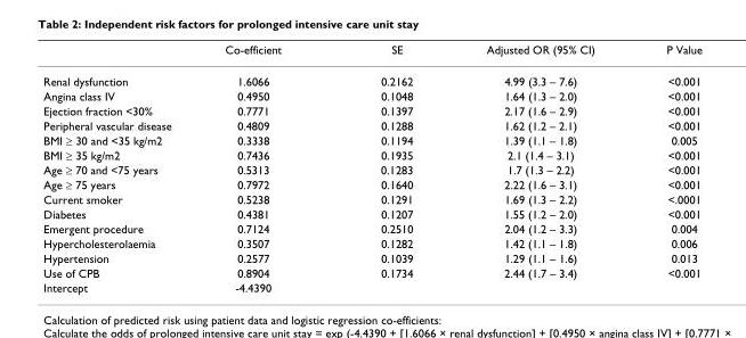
<table><thead><tr><td></td><td>Co-efficient</td><td>SE</td><td>Adjusted OR (95% CI)</td><td>P Value</td></tr></thead><tbody><tr><td>Renal dysfunction</td><td>1.6066</td><td>0.2162</td><td>4.99 (3.3 – 7.6)</td><td>&lt;0.001</td></tr><tr><td>Angina class IV</td><td>0.4950</td><td>0.1048</td><td>1.64 (1.3 – 2.0)</td><td>&lt;0.001</td></tr><tr><td>Ejection fraction &lt;30%</td><td>0.7771</td><td>0.1397</td><td>2.17 (1.6 – 2.9)</td><td>&lt;0.001</td></tr><tr><td>Peripheral vascular disease</td><td>0.4809</td><td>0.1288</td><td>1.62 (1.2 – 2.1)</td><td>&lt;0.001</td></tr><tr><td>BMI ≥ 30 and &lt;35 kg/m2</td><td>0.3338</td><td>0.1194</td><td>1.39 (1.1 – 1.8)</td><td>0.005</td></tr><tr><td>BMI ≥ 35 kg/m2</td><td>0.7436</td><td>0.1935</td><td>2.1 (1.4 – 3.1)</td><td>&lt;0.001</td></tr><tr><td>Age ≥ 70 and &lt;75 years</td><td>0.5313</td><td>0.1283</td><td>1.7 (1.3 – 2.2)</td><td>&lt;0.001</td></tr><tr><td>Age ≥ 75 years</td><td>0.7972</td><td>0.1640</td><td>2.22 (1.6 – 3.1)</td><td>&lt;0.001</td></tr><tr><td>Current smoker</td><td>0.5238</td><td>0.1291</td><td>1.69 (1.3 – 2.2)</td><td>&lt;.0001</td></tr><tr><td>Diabetes</td><td>0.4381</td><td>0.1207</td><td>1.55 (1.2 – 2.0)</td><td>&lt;0.001</td></tr><tr><td>Emergent procedure</td><td>0.7124</td><td>0.2510</td><td>2.04 (1.2 – 3.3)</td><td>0.004</td></tr><tr><td>Hypercholesterolaemia</td><td>0.3507</td><td>0.1282</td><td>1.42 (1.1 – 1.8)</td><td>0.006</td></tr><tr><td>Hypertension</td><td>0.2577</td><td>0.1039</td><td>1.29 (1.1 – 1.6)</td><td>0.013</td></tr><tr><td>Use of CPB</td><td>0.8904</td><td>0.1734</td><td>2.44 (1.7 – 3.4)</td><td>&lt;0.001</td></tr><tr><td>Intercept</td><td>-4.4390</td><td></td><td></td><td></td></tr></tbody></table>